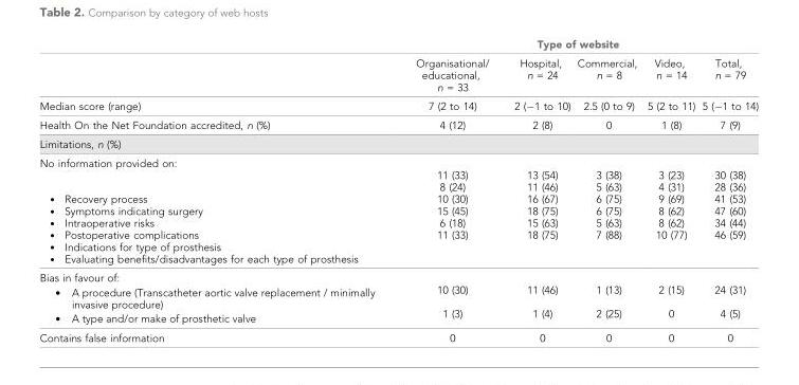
<table><thead><tr><td rowspan="2"></td><td colspan="5">Type of website</td></tr><tr><td>Organisational/ educational, n = 33</td><td>Hospital, n = 24</td><td>Commercial, n = 8</td><td>Video, n = 14</td><td>Total, n = 79</td></tr></thead><tbody><tr><td>Median score (range)</td><td>7 (2 to 14)</td><td>2 (−1 to 10)</td><td>2.5 (0 to 9)</td><td>5 (2 to 11)</td><td>5 (−1 to 14)</td></tr><tr><td>Health On the Net Foundation accredited, n (%)</td><td>4 (12)</td><td>2 (8)</td><td>0</td><td>1 (8)</td><td>7 (9)</td></tr><tr><td colspan="6">Limitations, n (%)</td></tr><tr><td>No information provided on: ● Recovery process ● Symptoms indicating surgery ● Intraoperative risks ● Postoperative complications ● Indications for type of prosthesis ● Evaluating benefits/disadvantages for each type of prosthesis</td><td>11 (33) 8 (24) 10 (30) 15 (45) 6 (18) 11 (33)</td><td>13 (54) 11 (46) 16 (67) 18 (75) 15 (63) 18 (75)</td><td>3 (38) 5 (63) 6 (75) 6 (75) 5 (63) 7 (88)</td><td>3 (23) 4 (31) 9 (69) 8 (62) 8 (62) 10 (77)</td><td>30 (38) 28 (36) 41 (53) 47 (60) 34 (44) 46 (59)</td></tr><tr><td>Bias in favour of: ● A procedure (Transcatheter aortic valve replacement / minimally invasive procedure) ● A type and/or make of prosthetic valve</td><td>10 (30) 1 (3)</td><td>11 (46) 1 (4)</td><td>1 (13) 2 (25)</td><td>2 (15) 0</td><td>24 (31) 4 (5)</td></tr><tr><td>Contains false information</td><td>0</td><td>0</td><td>0</td><td>0</td><td>0</td></tr></tbody></table>